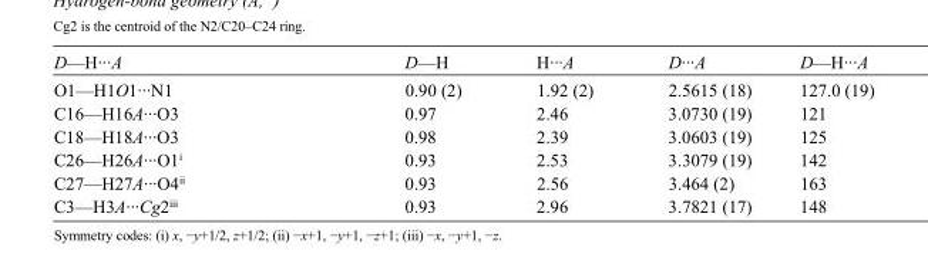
<table><tbody><tr><td>D—H···A</td><td>D—H</td><td>H···A</td><td>D···A</td><td>D—H···A</td></tr><tr><td>O1—H1O1···N1</td><td>0.90 (2)</td><td>1.92 (2)</td><td>2.5615 (18)</td><td>127.0 (19)</td></tr><tr><td>C16—H16A···O3</td><td>0.97</td><td>2.46</td><td>3.0730 (19)</td><td>121</td></tr><tr><td>C18—H18A···O3</td><td>0.98</td><td>2.39</td><td>3.0603 (19)</td><td>125</td></tr><tr><td>C26—H26A···O1<sup>i</sup></td><td>0.93</td><td>2.53</td><td>3.3079 (19)</td><td>142</td></tr><tr><td>C27—H27A···O4<sup>ii</sup></td><td>0.93</td><td>2.56</td><td>3.464 (2)</td><td>163</td></tr><tr><td>C3—H3A···Cg2<sup>iii</sup></td><td>0.93</td><td>2.96</td><td>3.7821 (17)</td><td>148</td></tr></tbody></table>